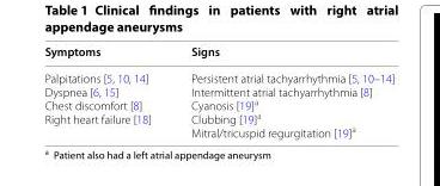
<table><thead><tr><td>Symptoms</td><td>Signs</td></tr></thead><tbody><tr><td>Palpitations [5, 10, 14] Dyspnea [6, 15] Chest discomfort [8] Right heart failure [18]</td><td>Persistent atrial tachyarrhythmia [5, 10–14] Intermittent atrial tachyarrhythmia [8] Cyanosis [19]<sup>a</sup> Clubbing [19]<sup>a</sup> Mitral/tricuspid regurgitation [19]<sup>a</sup></td></tr></tbody></table>